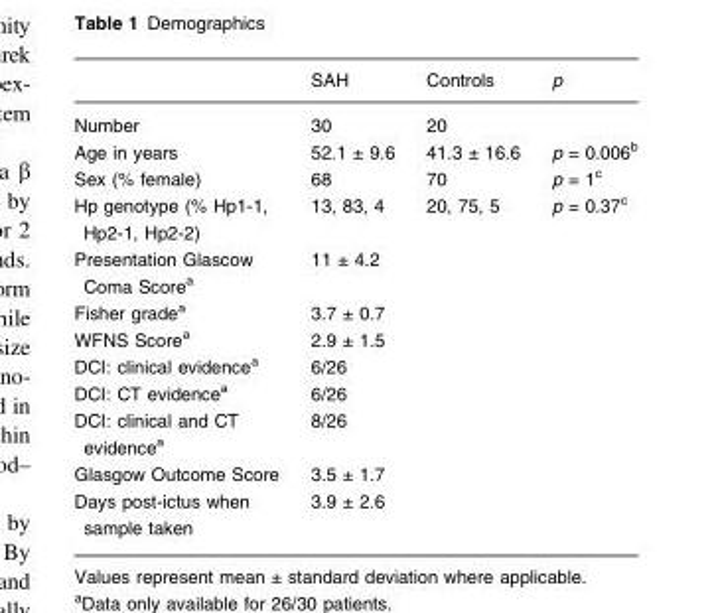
<table><thead><tr><td></td><td>SAH</td><td>Controls</td><td>p</td></tr></thead><tbody><tr><td>Number</td><td>30</td><td>20</td><td></td></tr><tr><td>Age in years</td><td>52.1 ± 9.6</td><td>41.3 ± 16.6</td><td>p = 0.006<sup>b</sup></td></tr><tr><td>Sex (% female)</td><td>68</td><td>70</td><td>p = 1<sup>c</sup></td></tr><tr><td>Hp genotype (% Hp1-1, Hp2-1, Hp2-2)</td><td>13, 83, 4</td><td>20, 75, 5</td><td>p = 0.37<sup>c</sup></td></tr><tr><td>Presentation Glascow Coma Score<sup>a</sup></td><td>11 ± 4.2</td><td></td><td></td></tr><tr><td>Fisher grade<sup>a</sup></td><td>3.7 ± 0.7</td><td></td><td></td></tr><tr><td>WFNS Score<sup>a</sup></td><td>2.9 ± 1.5</td><td></td><td></td></tr><tr><td>DCI: clinical evidence<sup>a</sup></td><td>6/26</td><td></td><td></td></tr><tr><td>DCI: CT evidence<sup>a</sup></td><td>6/26</td><td></td><td></td></tr><tr><td>DCI: clinical and CT evidence<sup>a</sup></td><td>8/26</td><td></td><td></td></tr><tr><td>Glasgow Outcome Score</td><td>3.5 ± 1.7</td><td></td><td></td></tr><tr><td>Days post-ictus when sample taken</td><td>3.9 ± 2.6</td><td></td><td></td></tr></tbody></table>